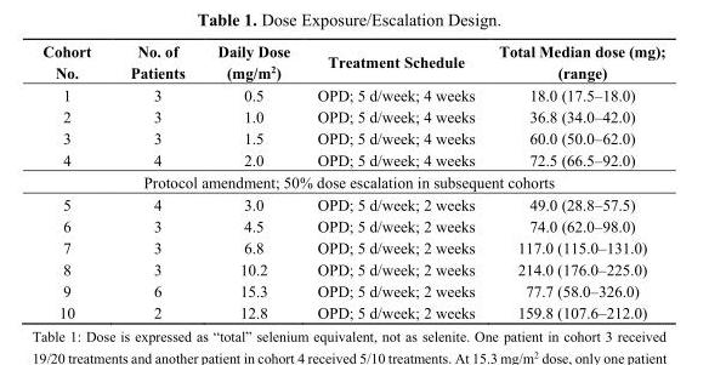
<table><thead><tr><td>Cohort No.</td><td>No. of Patients</td><td>Daily Dose (mg/m<sup>2</sup>)</td><td>Treatment Schedule</td><td>Total Median dose (mg); (range)</td></tr></thead><tbody><tr><td>1</td><td>3</td><td>0.5</td><td>OPD; 5 d/week; 4 weeks</td><td>18.0 (17.5–18.0)</td></tr><tr><td>2</td><td>3</td><td>1.0</td><td>OPD; 5 d/week; 4 weeks</td><td>36.8 (34.0–42.0)</td></tr><tr><td>3</td><td>3</td><td>1.5</td><td>OPD; 5 d/week; 4 weeks</td><td>60.0 (50.0–62.0)</td></tr><tr><td>4</td><td>4</td><td>2.0</td><td>OPD; 5 d/week; 4 weeks</td><td>72.5 (66.5–92.0)</td></tr><tr><td colspan="5">Protocol amendment; 50% dose escalation in subsequent cohorts</td></tr><tr><td>5</td><td>4</td><td>3.0</td><td>OPD; 5 d/week; 2 weeks</td><td>49.0 (28.8–57.5)</td></tr><tr><td>6</td><td>3</td><td>4.5</td><td>OPD; 5 d/week; 2 weeks</td><td>74.0 (62.0–98.0)</td></tr><tr><td>7</td><td>3</td><td>6.8</td><td>OPD; 5 d/week; 2 weeks</td><td>117.0 (115.0–131.0)</td></tr><tr><td>8</td><td>3</td><td>10.2</td><td>OPD; 5 d/week; 2 weeks</td><td>214.0 (176.0–225.0)</td></tr><tr><td>9</td><td>6</td><td>15.3</td><td>OPD; 5 d/week; 2 weeks</td><td>77.7 (58.0–326.0)</td></tr><tr><td>10</td><td>2</td><td>12.8</td><td>OPD; 5 d/week; 2 weeks</td><td>159.8 (107.6–212.0)</td></tr></tbody></table>